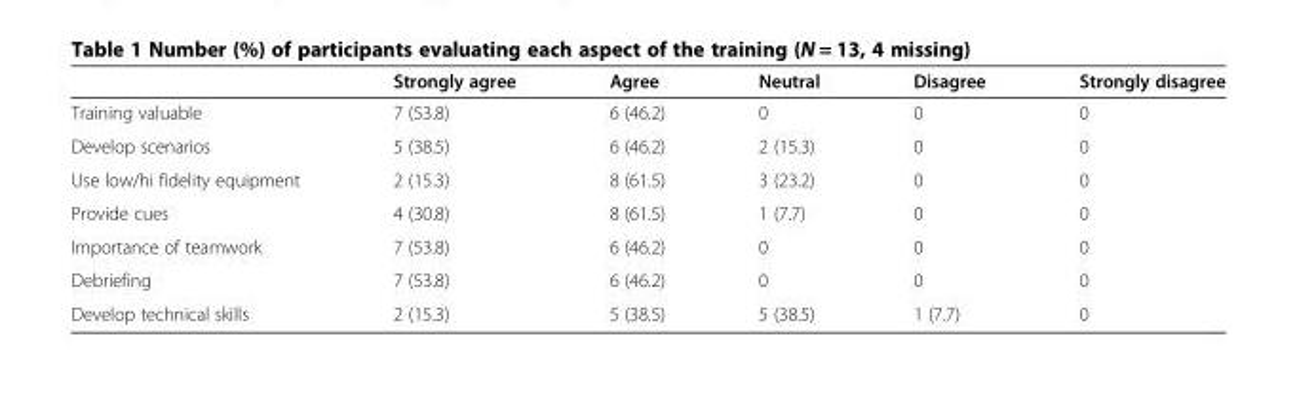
<table><thead><tr><td></td><td>Strongly agree</td><td>Agree</td><td>Neutral</td><td>Disagree</td><td>Strongly disagree</td></tr></thead><tbody><tr><td>Training valuable</td><td>7 (53.8)</td><td>6 (46.2)</td><td>0</td><td>0</td><td>0</td></tr><tr><td>Develop scenarios</td><td>5 (38.5)</td><td>6 (46.2)</td><td>2 (15.3)</td><td>0</td><td>0</td></tr><tr><td>Use low/hi fidelity equipment</td><td>2 (15.3)</td><td>8 (61.5)</td><td>3 (23.2)</td><td>0</td><td>0</td></tr><tr><td>Provide cues</td><td>4 (30.8)</td><td>8 (61.5)</td><td>1 (7.7)</td><td>0</td><td>0</td></tr><tr><td>Importance of teamwork</td><td>7 (53.8)</td><td>6 (46.2)</td><td>0</td><td>0</td><td>0</td></tr><tr><td>Debriefing</td><td>7 (53.8)</td><td>6 (46.2)</td><td>0</td><td>0</td><td>0</td></tr><tr><td>Develop technical skills</td><td>2 (15.3)</td><td>5 (38.5)</td><td>5 (38.5)</td><td>1 (7.7)</td><td>0</td></tr></tbody></table>